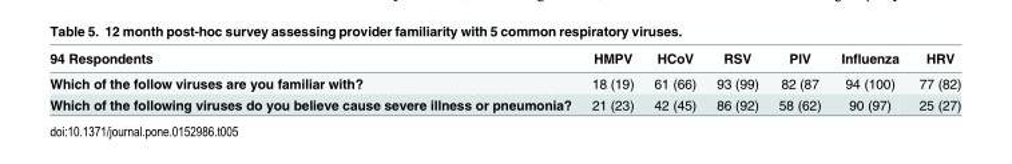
<table><thead><tr><td>94 Respondents</td><td>HMPV</td><td>HCoV</td><td>RSV</td><td>PIV</td><td>Influenza</td><td>HRV</td></tr></thead><tbody><tr><td>Which of the follow viruses are you familiar with?</td><td>18 (19)</td><td>61 (66)</td><td>93 (99)</td><td>82 (87</td><td>94 (100)</td><td>77 (82)</td></tr><tr><td>Which of the following viruses do you believe cause severe illness or pneumonia?</td><td>21 (23)</td><td>42 (45)</td><td>86 (92)</td><td>58 (62)</td><td>90 (97)</td><td>25 (27)</td></tr></tbody></table>